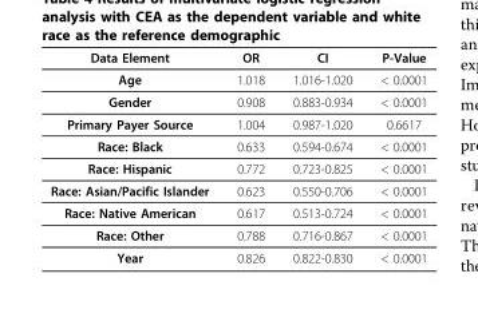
<table><thead><tr><td>Data Element</td><td>OR</td><td>CI</td><td>P-Value</td></tr></thead><tbody><tr><td>Age</td><td>1.018</td><td>1.016-1.020</td><td>&lt; 0.0001</td></tr><tr><td>Gender</td><td>0.908</td><td>0.883-0.934</td><td>&lt; 0.0001</td></tr><tr><td>Primary Payer Source</td><td>1.004</td><td>0.987-1.020</td><td>0.6617</td></tr><tr><td>Race: Black</td><td>0.633</td><td>0.594-0.674</td><td>&lt; 0.0001</td></tr><tr><td>Race: Hispanic</td><td>0.772</td><td>0.723-0.825</td><td>&lt; 0.0001</td></tr><tr><td>Race: Asian/Pacific Islander</td><td>0.623</td><td>0.550-0.706</td><td>&lt; 0.0001</td></tr><tr><td>Race: Native American</td><td>0.617</td><td>0.513-0.724</td><td>&lt; 0.0001</td></tr><tr><td>Race: Other</td><td>0.788</td><td>0.716-0.867</td><td>&lt; 0.0001</td></tr><tr><td>Year</td><td>0.826</td><td>0.822-0.830</td><td>&lt; 0.0001</td></tr></tbody></table>